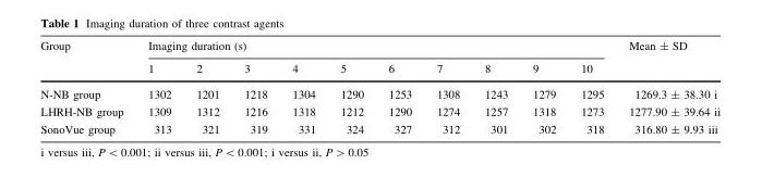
<table><thead><tr><td rowspan="2">Group</td><td colspan="10">Imaging duration (s)</td><td rowspan="2">Mean ± SD</td></tr><tr><td>1</td><td>2</td><td>3</td><td>4</td><td>5</td><td>6</td><td>7</td><td>8</td><td>9</td><td>10</td></tr></thead><tbody><tr><td>N-NB group</td><td>1302</td><td>1201</td><td>1218</td><td>1304</td><td>1290</td><td>1253</td><td>1308</td><td>1243</td><td>1279</td><td>1295</td><td>1269.3 ± 38.30 i</td></tr><tr><td>LHRH-NB group</td><td>1309</td><td>1312</td><td>1216</td><td>1318</td><td>1212</td><td>1290</td><td>1274</td><td>1257</td><td>1318</td><td>1273</td><td>1277.90 ± 39.64 ii</td></tr><tr><td>SonoVue group</td><td>313</td><td>321</td><td>319</td><td>331</td><td>324</td><td>327</td><td>312</td><td>301</td><td>302</td><td>318</td><td>316.80 ± 9.93 iii</td></tr></tbody></table>